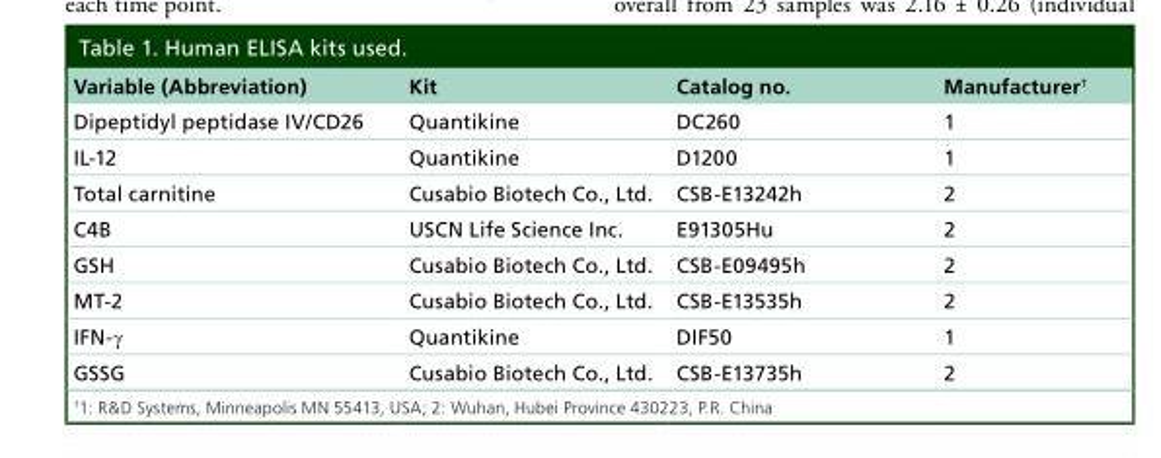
<table><thead><tr><td>Variable (Abbreviation)</td><td>Kit</td><td>Catalog no.</td><td>Manufacturer†</td></tr></thead><tbody><tr><td>Dipeptidyl peptidase IV/CD26</td><td>Quantikine</td><td>DC260</td><td>1</td></tr><tr><td>IL-12</td><td>Quantikine</td><td>D1200</td><td>1</td></tr><tr><td>Total carnitine</td><td>Cusabio Biotech Co., Ltd.</td><td>CSB-E13242h</td><td>2</td></tr><tr><td>C4B</td><td>USCN Life Science Inc.</td><td>E91305Hu</td><td>2</td></tr><tr><td>GSH</td><td>Cusabio Biotech Co., Ltd.</td><td>CSB-E09495h</td><td>2</td></tr><tr><td>MT-2</td><td>Cusabio Biotech Co., Ltd.</td><td>CSB-E13535h</td><td>2</td></tr><tr><td>IFN-γ</td><td>Quantikine</td><td>DIF50</td><td>1</td></tr><tr><td>GSSG</td><td>Cusabio Biotech Co., Ltd.</td><td>CSB-E13735h</td><td>2</td></tr></tbody></table>